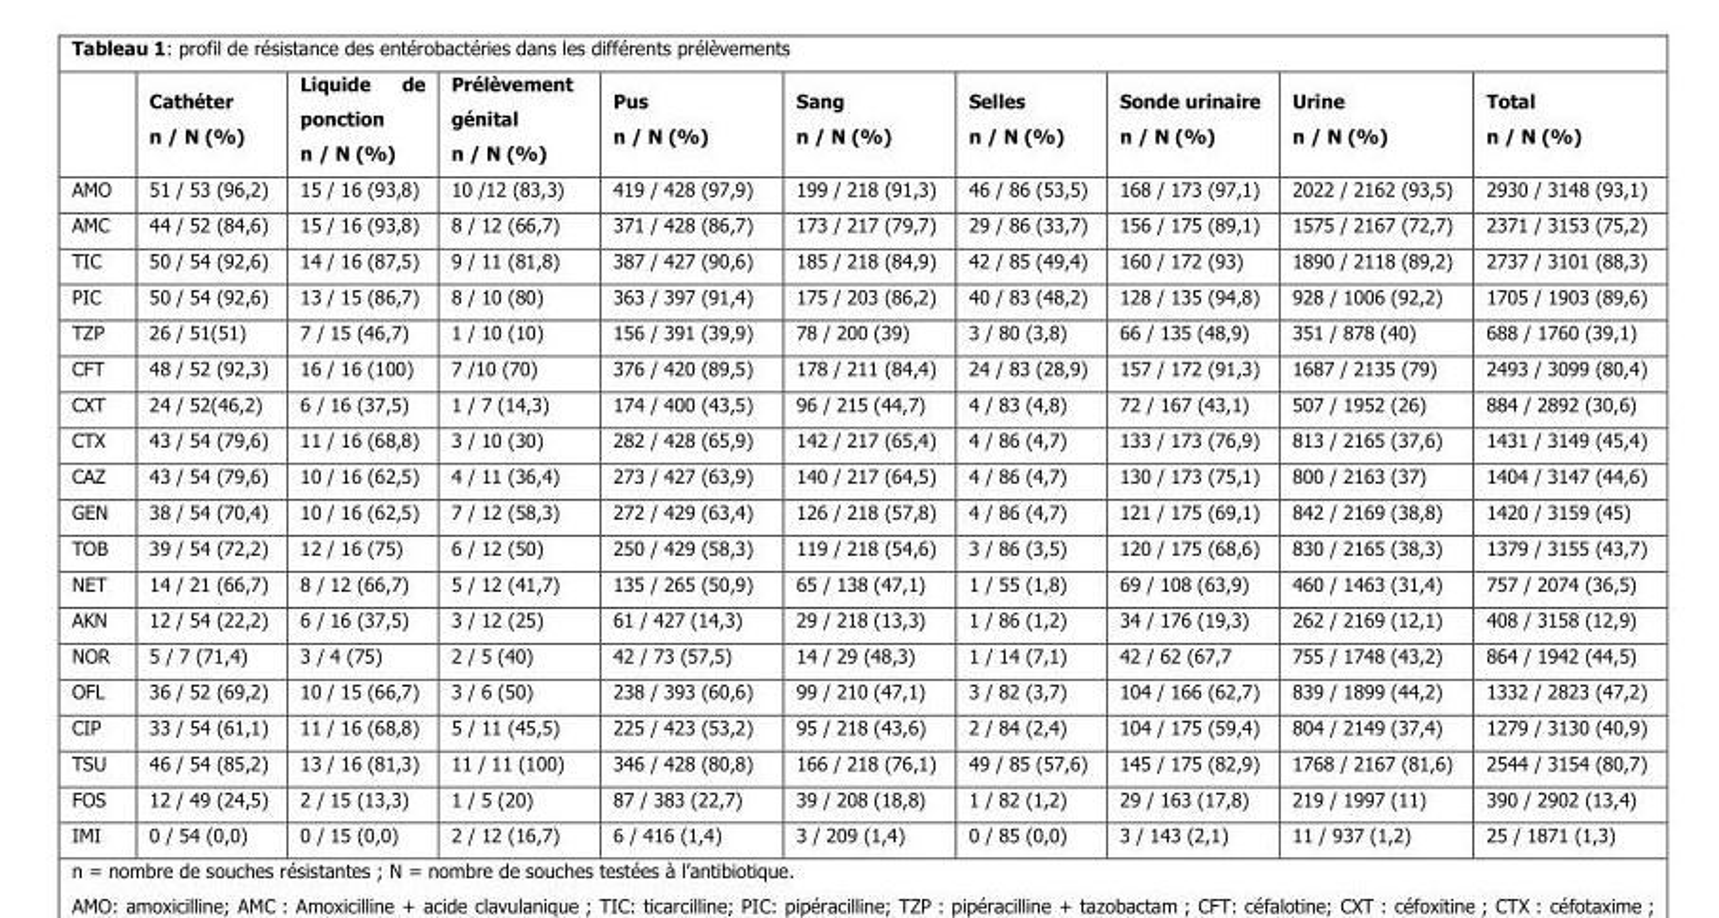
<table><thead><tr><td></td><td>Cathéter n / N (%)</td><td>Liquide de ponction n / N (%)</td><td>Prélèvement génital n / N (%)</td><td>Pus n / N (%)</td><td>Sang n / N (%)</td><td>Selles n / N (%)</td><td>Sonde urinaire n / N (%)</td><td>Urine n / N (%)</td><td>Total n / N (%)</td></tr></thead><tbody><tr><td>AMO</td><td>51 / 53 (96,2)</td><td>15 / 16 (93,8)</td><td>10 /12 (83,3)</td><td>419 / 428 (97,9)</td><td>199 / 218 (91,3)</td><td>46 / 86 (53,5)</td><td>168 / 173 (97,1)</td><td>2022 / 2162 (93,5)</td><td>2930 / 3148 (93,1)</td></tr><tr><td>AMC</td><td>44 / 52 (84,6)</td><td>15 / 16 (93,8)</td><td>8 / 12 (66,7)</td><td>371 / 428 (86,7)</td><td>173 / 217 (79,7)</td><td>29 / 86 (33,7)</td><td>156 / 175 (89,1)</td><td>1575 / 2167 (72,7)</td><td>2371 / 3153 (75,2)</td></tr><tr><td>TIC</td><td>50 / 54 (92,6)</td><td>14 / 16 (87,5)</td><td>9 / 11 (81,8)</td><td>387 / 427 (90,6)</td><td>185 / 218 (84,9)</td><td>42 / 85 (49,4)</td><td>160 / 172 (93)</td><td>1890 / 2118 (89,2)</td><td>2737 / 3101 (88,3)</td></tr><tr><td>PIC</td><td>50 / 54 (92,6)</td><td>13 / 15 (86,7)</td><td>8 / 10 (80)</td><td>363 / 397 (91,4)</td><td>175 / 203 (86,2)</td><td>40 / 83 (48,2)</td><td>128 / 135 (94,8)</td><td>928 / 1006 (92,2)</td><td>1705 / 1903 (89,6)</td></tr><tr><td>TZP</td><td>26 / 51(51)</td><td>7 / 15 (46,7)</td><td>1 / 10 (10)</td><td>156 / 391 (39,9)</td><td>78 / 200 (39)</td><td>3 / 80 (3,8)</td><td>66 / 135 (48,9)</td><td>351 / 878 (40)</td><td>688 / 1760 (39,1)</td></tr><tr><td>CFT</td><td>48 / 52 (92,3)</td><td>16 / 16 (100)</td><td>7 /10 (70)</td><td>376 / 420 (89,5)</td><td>178 / 211 (84,4)</td><td>24 / 83 (28,9)</td><td>157 / 172 (91,3)</td><td>1687 / 2135 (79)</td><td>2493 / 3099 (80,4)</td></tr><tr><td>CXT</td><td>24 / 52(46,2)</td><td>6 / 16 (37,5)</td><td>1 / 7 (14,3)</td><td>174 / 400 (43,5)</td><td>96 / 215 (44,7)</td><td>4 / 83 (4,8)</td><td>72 / 167 (43,1)</td><td>507 / 1952 (26)</td><td>884 / 2892 (30,6)</td></tr><tr><td>CTX</td><td>43 / 54 (79,6)</td><td>11 / 16 (68,8)</td><td>3 / 10 (30)</td><td>282 / 428 (65,9)</td><td>142 / 217 (65,4)</td><td>4 / 86 (4,7)</td><td>133 / 173 (76,9)</td><td>813 / 2165 (37,6)</td><td>1431 / 3149 (45,4)</td></tr><tr><td>CAZ</td><td>43 / 54 (79,6)</td><td>10 / 16 (62,5)</td><td>4 / 11 (36,4)</td><td>273 / 427 (63,9)</td><td>140 / 217 (64,5)</td><td>4 / 86 (4,7)</td><td>130 / 173 (75,1)</td><td>800 / 2163 (37)</td><td>1404 / 3147 (44,6)</td></tr><tr><td>GEN</td><td>38 / 54 (70,4)</td><td>10 / 16 (62,5)</td><td>7 / 12 (58,3)</td><td>272 / 429 (63,4)</td><td>126 / 218 (57,8)</td><td>4 / 86 (4,7)</td><td>121 / 175 (69,1)</td><td>842 / 2169 (38,8)</td><td>1420 / 3159 (45)</td></tr><tr><td>TOB</td><td>39 / 54 (72,2)</td><td>12 / 16 (75)</td><td>6 / 12 (50)</td><td>250 / 429 (58,3)</td><td>119 / 218 (54,6)</td><td>3 / 86 (3,5)</td><td>120 / 175 (68,6)</td><td>830 / 2165 (38,3)</td><td>1379 / 3155 (43,7)</td></tr><tr><td>NET</td><td>14 / 21 (66,7)</td><td>8 / 12 (66,7)</td><td>5 / 12 (41,7)</td><td>135 / 265 (50,9)</td><td>65 / 138 (47,1)</td><td>1 / 55 (1,8)</td><td>69 / 108 (63,9)</td><td>460 / 1463 (31,4)</td><td>757 / 2074 (36,5)</td></tr><tr><td>AKN</td><td>12 / 54 (22,2)</td><td>6 / 16 (37,5)</td><td>3 / 12 (25)</td><td>61 / 427 (14,3)</td><td>29 / 218 (13,3)</td><td>1 / 86 (1,2)</td><td>34 / 176 (19,3)</td><td>262 / 2169 (12,1)</td><td>408 / 3158 (12,9)</td></tr><tr><td>NOR</td><td>5 / 7 (71,4)</td><td>3 / 4 (75)</td><td>2 / 5 (40)</td><td>42 / 73 (57,5)</td><td>14 / 29 (48,3)</td><td>1 / 14 (7,1)</td><td>42 / 62 (67,7</td><td>755 / 1748 (43,2)</td><td>864 / 1942 (44,5)</td></tr><tr><td>OFL</td><td>36 / 52 (69,2)</td><td>10 / 15 (66,7)</td><td>3 / 6 (50)</td><td>238 / 393 (60,6)</td><td>99 / 210 (47,1)</td><td>3 / 82 (3,7)</td><td>104 / 166 (62,7)</td><td>839 / 1899 (44,2)</td><td>1332 / 2823 (47,2)</td></tr><tr><td>CIP</td><td>33 / 54 (61,1)</td><td>11 / 16 (68,8)</td><td>5 / 11 (45,5)</td><td>225 / 423 (53,2)</td><td>95 / 218 (43,6)</td><td>2 / 84 (2,4)</td><td>104 / 175 (59,4)</td><td>804 / 2149 (37,4)</td><td>1279 / 3130 (40,9)</td></tr><tr><td>TSU</td><td>46 / 54 (85,2)</td><td>13 / 16 (81,3)</td><td>11 / 11 (100)</td><td>346 / 428 (80,8)</td><td>166 / 218 (76,1)</td><td>49 / 85 (57,6)</td><td>145 / 175 (82,9)</td><td>1768 / 2167 (81,6)</td><td>2544 / 3154 (80,7)</td></tr><tr><td>FOS</td><td>12 / 49 (24,5)</td><td>2 / 15 (13,3)</td><td>1 / 5 (20)</td><td>87 / 383 (22,7)</td><td>39 / 208 (18,8)</td><td>1 / 82 (1,2)</td><td>29 / 163 (17,8)</td><td>219 / 1997 (11)</td><td>390 / 2902 (13,4)</td></tr><tr><td>IMI</td><td>0 / 54 (0,0)</td><td>0 / 15 (0,0)</td><td>2 / 12 (16,7)</td><td>6 / 416 (1,4)</td><td>3 / 209 (1,4)</td><td>0 / 85 (0,0)</td><td>3 / 143 (2,1)</td><td>11 / 937 (1,2)</td><td>25 / 1871 (1,3)</td></tr></tbody></table>